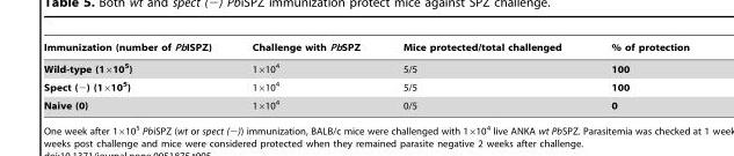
<table><thead><tr><td>Immunization (number of PbISPZ)</td><td>Challenge with PbSPZ</td><td>Mice protected/total challenged</td><td>% of protection</td></tr></thead><tbody><tr><td>Wild-type (1×10<sup>5</sup>)</td><td>1×10<sup>4</sup></td><td>5/5</td><td>100</td></tr><tr><td>Spect (−) (1×10<sup>5</sup>)</td><td>1×10<sup>4</sup></td><td>5/5</td><td>100</td></tr><tr><td>Naive (0)</td><td>1×10<sup>4</sup></td><td>0/5</td><td>0</td></tr></tbody></table>